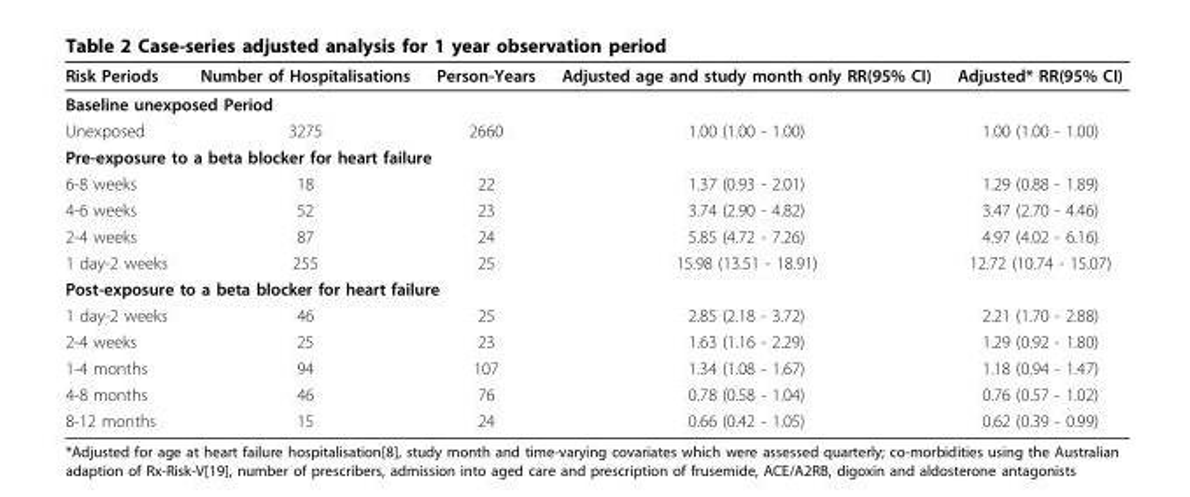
<table><thead><tr><td>Risk Periods</td><td>Number of Hospitalisations</td><td>Person-Years</td><td>Adjusted age and study month only RR(95% CI)</td><td>Adjusted* RR(95% CI)</td></tr></thead><tbody><tr><td colspan="5">Baseline unexposed Period</td></tr><tr><td>Unexposed</td><td>3275</td><td>2660</td><td>1.00 (1.00 - 1.00)</td><td>1.00 (1.00 - 1.00)</td></tr><tr><td colspan="5">Pre-exposure to a beta blocker for heart failure</td></tr><tr><td>6-8 weeks</td><td>18</td><td>22</td><td>1.37 (0.93 - 2.01)</td><td>1.29 (0.88 - 1.89)</td></tr><tr><td>4-6 weeks</td><td>52</td><td>23</td><td>3.74 (2.90 - 4.82)</td><td>3.47 (2.70 - 4.46)</td></tr><tr><td>2-4 weeks</td><td>87</td><td>24</td><td>5.85 (4.72 - 7.26)</td><td>4.97 (4.02 - 6.16)</td></tr><tr><td>1 day-2 weeks</td><td>255</td><td>25</td><td>15.98 (13.51 - 18.91)</td><td>12.72 (10.74 - 15.07)</td></tr><tr><td colspan="5">Post-exposure to a beta blocker for heart failure</td></tr><tr><td>1 day-2 weeks</td><td>46</td><td>25</td><td>2.85 (2.18 - 3.72)</td><td>2.21 (1.70 - 2.88)</td></tr><tr><td>2-4 weeks</td><td>25</td><td>23</td><td>1.63 (1.16 - 2.29)</td><td>1.29 (0.92 - 1.80)</td></tr><tr><td>1-4 months</td><td>94</td><td>107</td><td>1.34 (1.08 - 1.67)</td><td>1.18 (0.94 - 1.47)</td></tr><tr><td>4-8 months</td><td>46</td><td>76</td><td>0.78 (0.58 - 1.04)</td><td>0.76 (0.57 - 1.02)</td></tr><tr><td>8-12 months</td><td>15</td><td>24</td><td>0.66 (0.42 - 1.05)</td><td>0.62 (0.39 - 0.99)</td></tr></tbody></table>